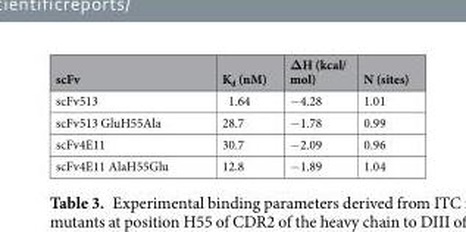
<table><thead><tr><td>scFv</td><td>K<sub>d</sub> (nM)</td><td>ΔH (kcal/ mol)</td><td>N (sites)</td></tr></thead><tbody><tr><td>scFv513</td><td>1.64</td><td>−4.28</td><td>1.01</td></tr><tr><td>scFv513 GluH55Ala</td><td>28.7</td><td>−1.78</td><td>0.99</td></tr><tr><td>scFv4E11</td><td>30.7</td><td>−2.09</td><td>0.96</td></tr><tr><td>scFv4E11 AlaH55Glu</td><td>12.8</td><td>−1.89</td><td>1.04</td></tr></tbody></table>